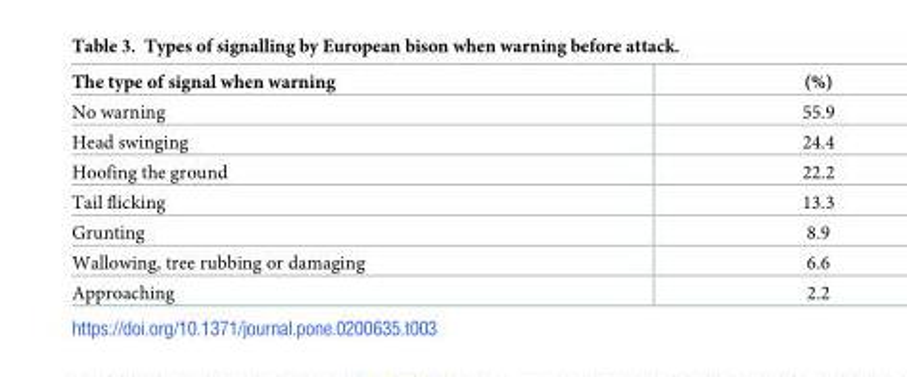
<table><thead><tr><td>The type of signal when warning</td><td>(%)</td></tr></thead><tbody><tr><td>No warning</td><td>55.9</td></tr><tr><td>Head swinging</td><td>24.4</td></tr><tr><td>Hoofing the ground</td><td>22.2</td></tr><tr><td>Tail flicking</td><td>13.3</td></tr><tr><td>Grunting</td><td>8.9</td></tr><tr><td>Wallowing, tree rubbing or damaging</td><td>6.6</td></tr><tr><td>Approaching</td><td>2.2</td></tr></tbody></table>